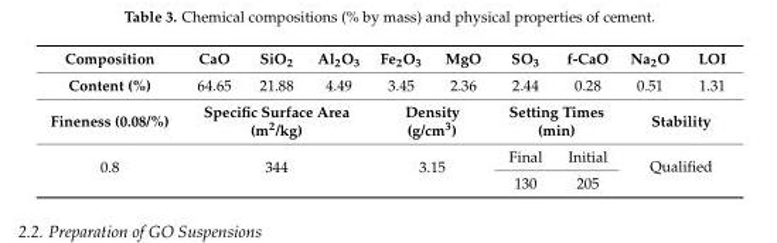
<table><thead><tr><td>Composition</td><td>CaO</td><td>SiO<sub>2</sub></td><td>Al<sub>2</sub>O<sub>3</sub></td><td>Fe<sub>2</sub>O<sub>3</sub></td><td>MgO</td><td>SO<sub>3</sub></td><td>f-CaO</td><td>Na<sub>2</sub>O</td><td>LOI</td></tr></thead><tbody><tr><td>Content (%)</td><td>64.65</td><td>21.88</td><td>4.49</td><td>3.45</td><td>2.36</td><td>2.44</td><td>0.28</td><td>0.51</td><td>1.31</td></tr><tr><td>Fineness (0.08/%)</td><td colspan="3">Specific Surface Area (m<sup>2</sup>/kg)</td><td colspan="2">Density (g/cm<sup>3</sup>)</td><td colspan="2">Setting Times (min)</td><td colspan="2">Stability</td></tr><tr><td rowspan="2">0.8</td><td rowspan="2" colspan="3">344</td><td rowspan="2" colspan="2">3.15</td><td>Final</td><td>Initial</td><td rowspan="2" colspan="2">Qualified</td></tr><tr><td>130</td><td>205</td></tr></tbody></table>